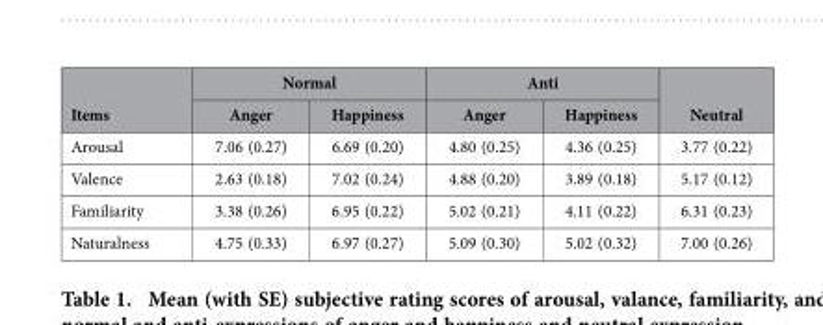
<table><thead><tr><td rowspan="2">Items</td><td colspan="2">Normal</td><td colspan="2">Anti</td><td rowspan="2">Neutral</td></tr><tr><td>Anger</td><td>Happiness</td><td>Anger</td><td>Happiness</td></tr></thead><tbody><tr><td>Arousal</td><td>7.06 (0.27)</td><td>6.69 (0.20)</td><td>4.80 (0.25)</td><td>4.36 (0.25)</td><td>3.77 (0.22)</td></tr><tr><td>Valence</td><td>2.63 (0.18)</td><td>7.02 (0.24)</td><td>4.88 (0.20)</td><td>3.89 (0.18)</td><td>5.17 (0.12)</td></tr><tr><td>Familiarity</td><td>3.38 (0.26)</td><td>6.95 (0.22)</td><td>5.02 (0.21)</td><td>4.11 (0.22)</td><td>6.31 (0.23)</td></tr><tr><td>Naturalness</td><td>4.75 (0.33)</td><td>6.97 (0.27)</td><td>5.09 (0.30)</td><td>5.02 (0.32)</td><td>7.00 (0.26)</td></tr></tbody></table>